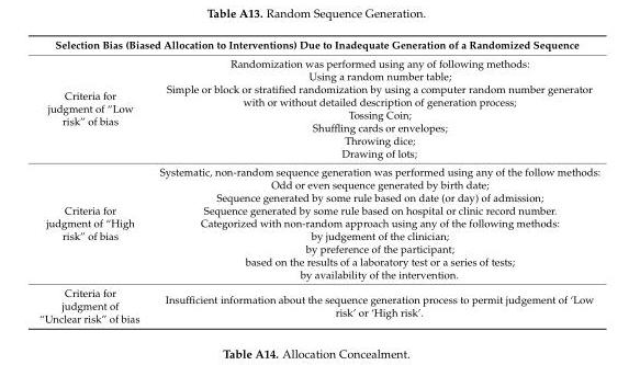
<table><thead><tr><td colspan="2">Selection Bias (Biased Allocation to Interventions) Due to Inadequate Generation of a Randomized Sequence</td></tr><tr><td>Criteria for judgment of “Low risk” of bias</td><td>Randomization was performed using any of following methods: Using a random number table; Simple or block or stratified randomization by using a computer random number generator with or without detailed description of generation process; Tossing Coin; Shuffling cards or envelopes; Throwing dice; Drawing of lots;</td></tr></thead><tbody><tr><td>Criteria for judgment of “High risk” of bias</td><td>Systematic, non-random sequence generation was performed using any of the follow methods: Odd or even sequence generated by birth date; Sequence generated by some rule based on date (or day) of admission; Sequence generated by some rule based on hospital or clinic record number. Categorized with non-random approach using any of the following methods: by judgement of the clinician; by preference of the participant; based on the results of a laboratory test or a series of tests; by availability of the intervention.</td></tr><tr><td>Criteria for judgment of “Unclear risk” of bias</td><td>Insufficient information about the sequence generation process to permit judgement of ‘Low risk’ or ‘High risk’.</td></tr></tbody></table>